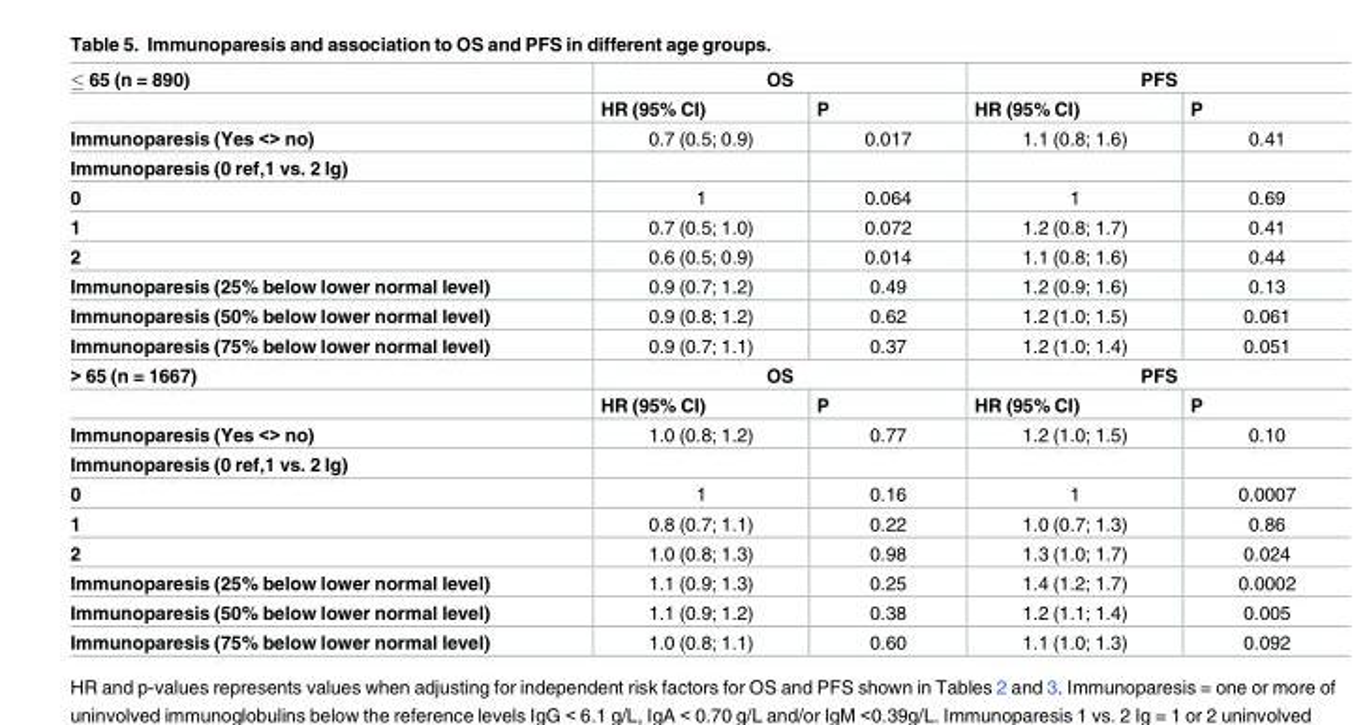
<table><tbody><tr><td rowspan="2">≤ 65 (n = 890)</td><td colspan="2">OS</td><td colspan="2">PFS</td></tr><tr><td>HR (95% CI)</td><td>P</td><td>HR (95% CI)</td><td>P</td></tr><tr><td>Immunoparesis (Yes &lt;&gt; no)</td><td>0.7 (0.5; 0.9)</td><td>0.017</td><td>1.1 (0.8; 1.6)</td><td>0.41</td></tr><tr><td colspan="5">Immunoparesis (0 ref,1 vs. 2 Ig)</td></tr><tr><td>0</td><td>1</td><td>0.064</td><td>1</td><td>0.69</td></tr><tr><td>1</td><td>0.7 (0.5; 1.0)</td><td>0.072</td><td>1.2 (0.8; 1.7)</td><td>0.41</td></tr><tr><td>2</td><td>0.6 (0.5; 0.9)</td><td>0.014</td><td>1.1 (0.8; 1.6)</td><td>0.44</td></tr><tr><td>Immunoparesis (25% below lower normal level)</td><td>0.9 (0.7; 1.2)</td><td>0.49</td><td>1.2 (0.9; 1.6)</td><td>0.13</td></tr><tr><td>Immunoparesis (50% below lower normal level)</td><td>0.9 (0.8; 1.2)</td><td>0.62</td><td>1.2 (1.0; 1.5)</td><td>0.061</td></tr><tr><td>Immunoparesis (75% below lower normal level)</td><td>0.9 (0.7; 1.1)</td><td>0.37</td><td>1.2 (1.0; 1.4)</td><td>0.051</td></tr><tr><td rowspan="2">&gt; 65 (n = 1667)</td><td colspan="2">OS</td><td colspan="2">PFS</td></tr><tr><td>HR (95% CI)</td><td>P</td><td>HR (95% CI)</td><td>P</td></tr><tr><td>Immunoparesis (Yes &lt;&gt; no)</td><td>1.0 (0.8; 1.2)</td><td>0.77</td><td>1.2 (1.0; 1.5)</td><td>0.10</td></tr><tr><td colspan="5">Immunoparesis (0 ref,1 vs. 2 Ig)</td></tr><tr><td>0</td><td>1</td><td>0.16</td><td>1</td><td>0.0007</td></tr><tr><td>1</td><td>0.8 (0.7; 1.1)</td><td>0.22</td><td>1.0 (0.7; 1.3)</td><td>0.86</td></tr><tr><td>2</td><td>1.0 (0.8; 1.3)</td><td>0.98</td><td>1.3 (1.0; 1.7)</td><td>0.024</td></tr><tr><td>Immunoparesis (25% below lower normal level)</td><td>1.1 (0.9; 1.3)</td><td>0.25</td><td>1.4 (1.2; 1.7)</td><td>0.0002</td></tr><tr><td>Immunoparesis (50% below lower normal level)</td><td>1.1 (0.9; 1.2)</td><td>0.38</td><td>1.2 (1.1; 1.4)</td><td>0.005</td></tr><tr><td>Immunoparesis (75% below lower normal level)</td><td>1.0 (0.8; 1.1)</td><td>0.60</td><td>1.1 (1.0; 1.3)</td><td>0.092</td></tr></tbody></table>